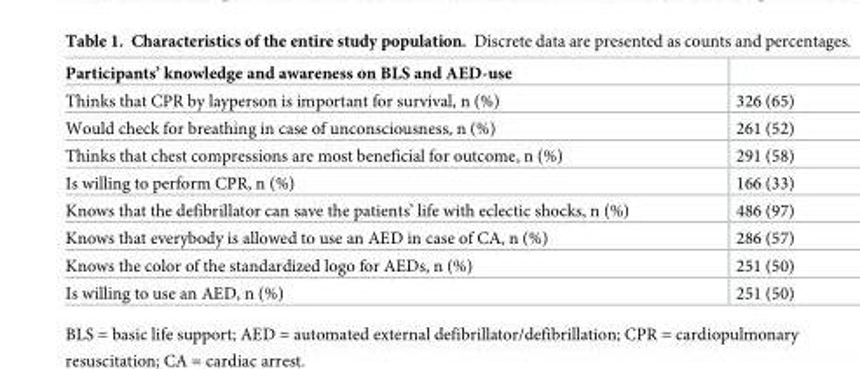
<table><thead><tr><td>Participants’ knowledge and awareness on BLS and AED-use</td><td></td></tr></thead><tbody><tr><td>Thinks that CPR by layperson is important for survival, n (%)</td><td>326 (65)</td></tr><tr><td>Would check for breathing in case of unconsciousness, n (%)</td><td>261 (52)</td></tr><tr><td>Thinks that chest compressions are most beneficial for outcome, n (%)</td><td>291 (58)</td></tr><tr><td>Is willing to perform CPR, n (%)</td><td>166 (33)</td></tr><tr><td>Knows that the defibrillator can save the patients’ life with eclectic shocks, n (%)</td><td>486 (97)</td></tr><tr><td>Knows that everybody is allowed to use an AED in case of CA, n (%)</td><td>286 (57)</td></tr><tr><td>Knows the color of the standardized logo for AEDs, n (%)</td><td>251 (50)</td></tr><tr><td>Is willing to use an AED, n (%)</td><td>251 (50)</td></tr></tbody></table>